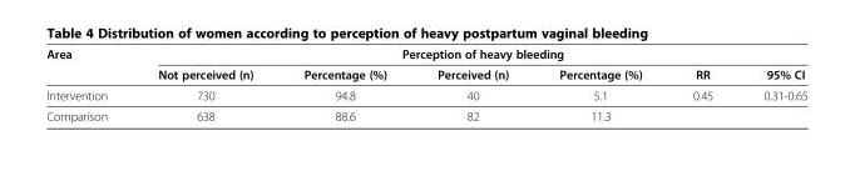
<table><thead><tr><td rowspan="2">Area</td><td colspan="6">Perception of heavy bleeding</td></tr><tr><td>Not perceived (n)</td><td>Percentage (%)</td><td>Perceived (n)</td><td>Percentage (%)</td><td>RR</td><td>95% CI</td></tr></thead><tbody><tr><td>Intervention</td><td>730</td><td>94.8</td><td>40</td><td>5.1</td><td>0.45</td><td>0.31-0.65</td></tr><tr><td>Comparison</td><td>638</td><td>88.6</td><td>82</td><td>11.3</td><td></td><td></td></tr></tbody></table>